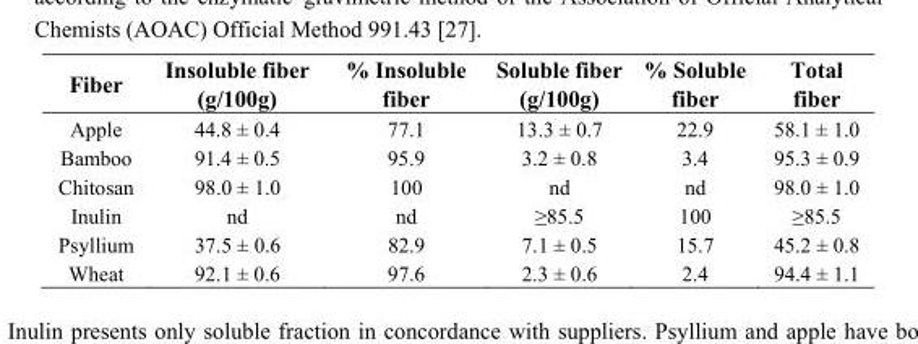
<table><thead><tr><td>Fiber</td><td>Insoluble fiber (g/100g)</td><td>% Insoluble fiber</td><td>Soluble fiber (g/100g)</td><td>% Soluble fiber</td><td>Total fiber</td></tr></thead><tbody><tr><td>Apple</td><td>44.8 ± 0.4</td><td>77.1</td><td>13.3 ± 0.7</td><td>22.9</td><td>58.1 ± 1.0</td></tr><tr><td>Bamboo</td><td>91.4 ± 0.5</td><td>95.9</td><td>3.2 ± 0.8</td><td>3.4</td><td>95.3 ± 0.9</td></tr><tr><td>Chitosan</td><td>98.0 ± 1.0</td><td>100</td><td>nd</td><td>nd</td><td>98.0 ± 1.0</td></tr><tr><td>Inulin</td><td>nd</td><td>nd</td><td>≥85.5</td><td>100</td><td>≥85.5</td></tr><tr><td>Psyllium</td><td>37.5 ± 0.6</td><td>82.9</td><td>7.1 ± 0.5</td><td>15.7</td><td>45.2 ± 0.8</td></tr><tr><td>Wheat</td><td>92.1 ± 0.6</td><td>97.6</td><td>2.3 ± 0.6</td><td>2.4</td><td>94.4 ± 1.1</td></tr></tbody></table>